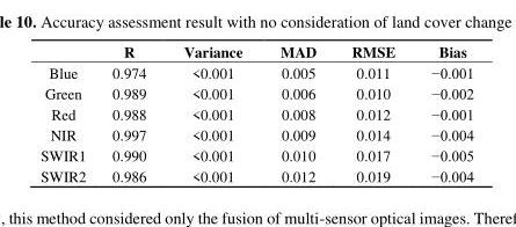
<table><thead><tr><td></td><td>R</td><td>Variance</td><td>MAD</td><td>RMSE</td><td>Bias</td></tr></thead><tbody><tr><td>Blue</td><td>0.974</td><td>&lt;0.001</td><td>0.005</td><td>0.011</td><td>−0.001</td></tr><tr><td>Green</td><td>0.989</td><td>&lt;0.001</td><td>0.006</td><td>0.010</td><td>−0.002</td></tr><tr><td>Red</td><td>0.988</td><td>&lt;0.001</td><td>0.008</td><td>0.012</td><td>−0.001</td></tr><tr><td>NIR</td><td>0.997</td><td>&lt;0.001</td><td>0.009</td><td>0.014</td><td>−0.004</td></tr><tr><td>SWIR1</td><td>0.990</td><td>&lt;0.001</td><td>0.010</td><td>0.017</td><td>−0.005</td></tr><tr><td>SWIR2</td><td>0.986</td><td>&lt;0.001</td><td>0.012</td><td>0.019</td><td>−0.004</td></tr></tbody></table>